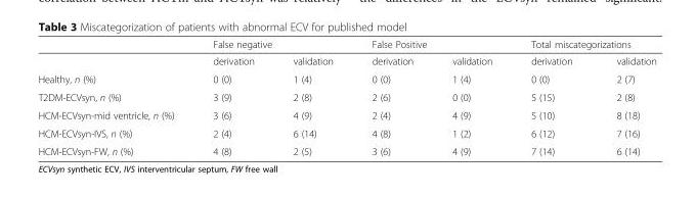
<table><thead><tr><td rowspan="2"></td><td colspan="2">False negative</td><td colspan="2">False Positive</td><td colspan="2">Total miscategorizations</td></tr><tr><td>derivation</td><td>validation</td><td>derivation</td><td>validation</td><td>derivation</td><td>validation</td></tr></thead><tbody><tr><td>Healthy, n (%)</td><td>0 (0)</td><td>1 (4)</td><td>0 (0)</td><td>1 (4)</td><td>0 (0)</td><td>2 (7)</td></tr><tr><td>T2DM-ECVsyn, n (%)</td><td>3 (9)</td><td>2 (8)</td><td>2 (6)</td><td>0 (0)</td><td>5 (15)</td><td>2 (8)</td></tr><tr><td>HCM-ECVsyn-mid ventricle, n (%)</td><td>3 (6)</td><td>4 (9)</td><td>2 (4)</td><td>4 (9)</td><td>5 (10)</td><td>8 (18)</td></tr><tr><td>HCM-ECVsyn-IVS, n (%)</td><td>2 (4)</td><td>6 (14)</td><td>4 (8)</td><td>1 (2)</td><td>6 (12)</td><td>7 (16)</td></tr><tr><td>HCM-ECVsyn-FW, n (%)</td><td>4 (8)</td><td>2 (5)</td><td>3 (6)</td><td>4 (9)</td><td>7 (14)</td><td>6 (14)</td></tr></tbody></table>